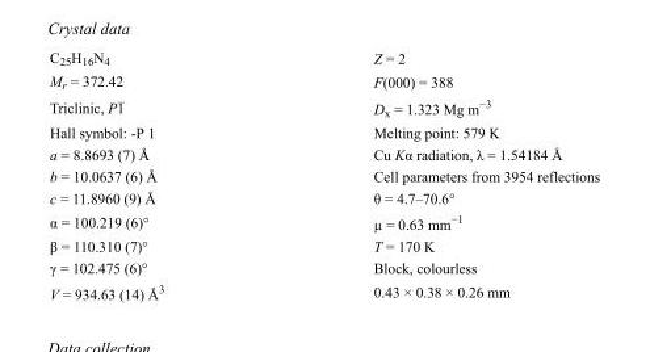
<table><tbody><tr><td>C<sub>25</sub>H<sub>16</sub>N<sub>4</sub></td><td>Z = 2</td></tr><tr><td>M<sub>r</sub> = 372.42</td><td>F(000) = 388</td></tr><tr><td>Triclinic, P1</td><td>D<sub>x</sub> = 1.323 Mg m<sup>−3</sup></td></tr><tr><td>Hall symbol: -P 1</td><td>Melting point: 579 K</td></tr><tr><td>a = 8.8693 (7) Å</td><td>Cu Kα radiation, λ = 1.54184 Å</td></tr><tr><td>b = 10.0637 (6) Å</td><td>Cell parameters from 3954 reflections</td></tr><tr><td>c = 11.8960 (9) Å</td><td>θ = 4.7–70.6°</td></tr><tr><td>α = 100.219 (6)°</td><td>µ = 0.63 mm<sup>−1</sup></td></tr><tr><td>β = 110.310 (7)°</td><td>T = 170 K</td></tr><tr><td>γ = 102.475 (6)°</td><td>Block, colourless</td></tr><tr><td>V = 934.63 (14) Å<sup>3</sup></td><td>0.43 × 0.38 × 0.26 mm</td></tr></tbody></table>